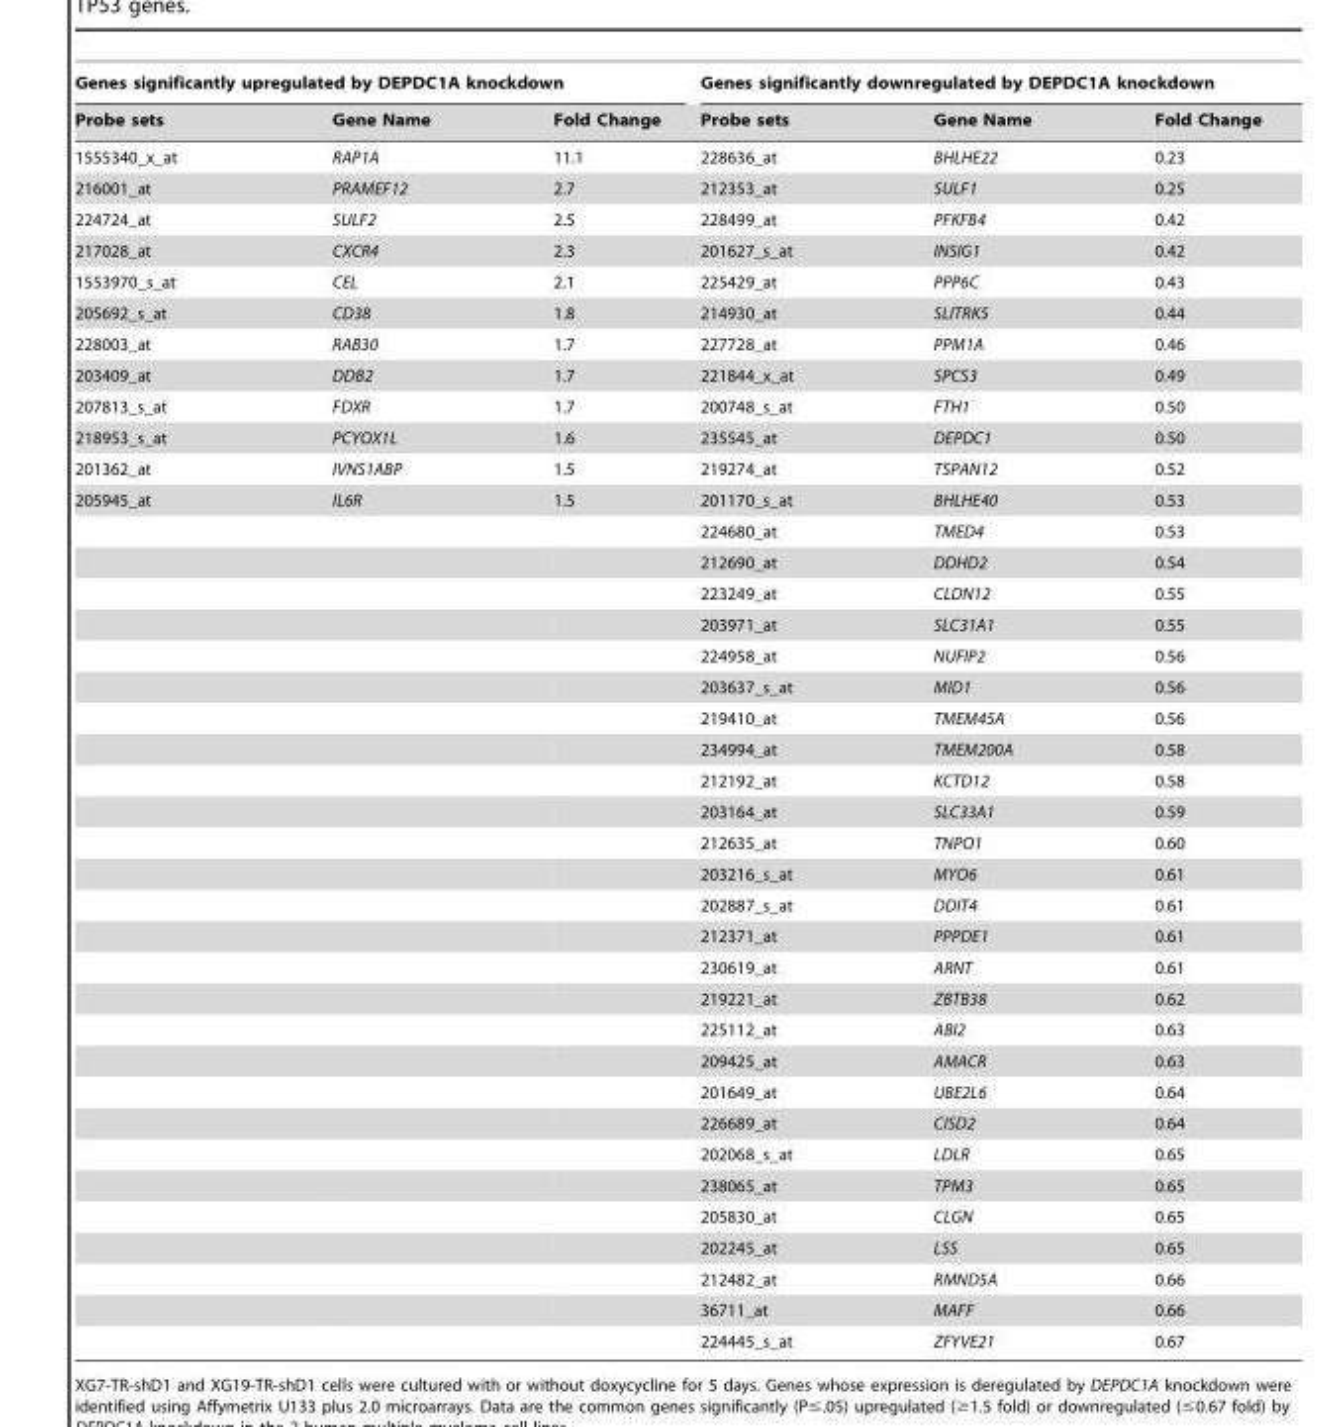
<table><thead><tr><td colspan="3">Genes significantly upregulated by DEPDC1A knockdown</td><td colspan="3">Genes significantly downregulated by DEPDC1A knockdown</td></tr><tr><td>Probe sets</td><td>Gene Name</td><td>Fold Change</td><td>Probe sets</td><td>Gene Name</td><td>Fold Change</td></tr></thead><tbody><tr><td>1555340_x_at</td><td>RAP1A</td><td>11.1</td><td>228636_at</td><td>BHLHE22</td><td>0.23</td></tr><tr><td>216001_at</td><td>PRAMEF12</td><td>2.7</td><td>212353_at</td><td>SULF1</td><td>0.25</td></tr><tr><td>224724_at</td><td>SULF2</td><td>2.5</td><td>228499_at</td><td>PFKFB4</td><td>0.42</td></tr><tr><td>217028_at</td><td>CXCR4</td><td>2.3</td><td>201627_s_at</td><td>INSIG1</td><td>0.42</td></tr><tr><td>1553970_s_at</td><td>CEL</td><td>2.1</td><td>225429_at</td><td>PPP6C</td><td>0.43</td></tr><tr><td>205692_s_at</td><td>CD38</td><td>1.8</td><td>214930_at</td><td>SLITRK5</td><td>0.44</td></tr><tr><td>228003_at</td><td>RAB30</td><td>1.7</td><td>227728_at</td><td>PPM1A</td><td>0.46</td></tr><tr><td>203409_at</td><td>DDB2</td><td>1.7</td><td>221844_x_at</td><td>SPCS3</td><td>0.49</td></tr><tr><td>207813_s_at</td><td>FDXR</td><td>1.7</td><td>200748_s_at</td><td>FTH1</td><td>0.50</td></tr><tr><td>218953_s_at</td><td>PCYOX1L</td><td>1.6</td><td>235545_at</td><td>DEPDC1</td><td>0.50</td></tr><tr><td>201362_at</td><td>IVNS1ABP</td><td>1.5</td><td>219274_at</td><td>TSPAN12</td><td>0.52</td></tr><tr><td rowspan="28">205945_at</td><td>IL6R</td><td>1.5</td><td>201170_s_at</td><td>BHLHE40</td><td>0.53</td></tr><tr><td></td><td></td><td>224680_at</td><td>TMED4</td><td>0.53</td></tr><tr><td></td><td></td><td>212690_at</td><td>DDHD2</td><td>0.54</td></tr><tr><td></td><td></td><td>223249_at</td><td>CLDN12</td><td>0.55</td></tr><tr><td></td><td></td><td>203971_at</td><td>SLC31A1</td><td>0.55</td></tr><tr><td></td><td></td><td>224958_at</td><td>NUFIP2</td><td>0.56</td></tr><tr><td></td><td></td><td>203637_s_at</td><td>MID1</td><td>0.56</td></tr><tr><td></td><td></td><td>219410_at</td><td>TMEM45A</td><td>0.56</td></tr><tr><td></td><td></td><td>234994_at</td><td>TMEM200A</td><td>0.58</td></tr><tr><td></td><td></td><td>212192_at</td><td>KCTD12</td><td>0.58</td></tr><tr><td></td><td></td><td>203164_at</td><td>SLC33A1</td><td>0.59</td></tr><tr><td></td><td></td><td>212635_at</td><td>TNPO1</td><td>0.60</td></tr><tr><td></td><td></td><td>203216_s_at</td><td>MYO6</td><td>0.61</td></tr><tr><td></td><td></td><td>202887_s_at</td><td>DDIT4</td><td>0.61</td></tr><tr><td></td><td></td><td>212371_at</td><td>PPPDE1</td><td>0.61</td></tr><tr><td></td><td></td><td>230619_at</td><td>ARNT</td><td>0.61</td></tr><tr><td></td><td></td><td>219221_at</td><td>ZBTB38</td><td>0.62</td></tr><tr><td></td><td></td><td>225112_at</td><td>ABI2</td><td>0.63</td></tr><tr><td></td><td></td><td>209425_at</td><td>AMACR</td><td>0.63</td></tr><tr><td></td><td></td><td>201649_at</td><td>UBE2L6</td><td>0.64</td></tr><tr><td></td><td></td><td>226689_at</td><td>CISD2</td><td>0.64</td></tr><tr><td></td><td></td><td>202068_s_at</td><td>LDLR</td><td>0.65</td></tr><tr><td></td><td></td><td>238065_at</td><td>TPM3</td><td>0.65</td></tr><tr><td></td><td></td><td>205830_at</td><td>CLGN</td><td>0.65</td></tr><tr><td></td><td></td><td>202245_at</td><td>LSS</td><td>0.65</td></tr><tr><td></td><td></td><td>212482_at</td><td>RMND5A</td><td>0.66</td></tr><tr><td></td><td></td><td>36711_at</td><td>MAFF</td><td>0.66</td></tr><tr><td></td><td></td><td>224445_s_at</td><td>ZFYVE21</td><td>0.67</td></tr></tbody></table>